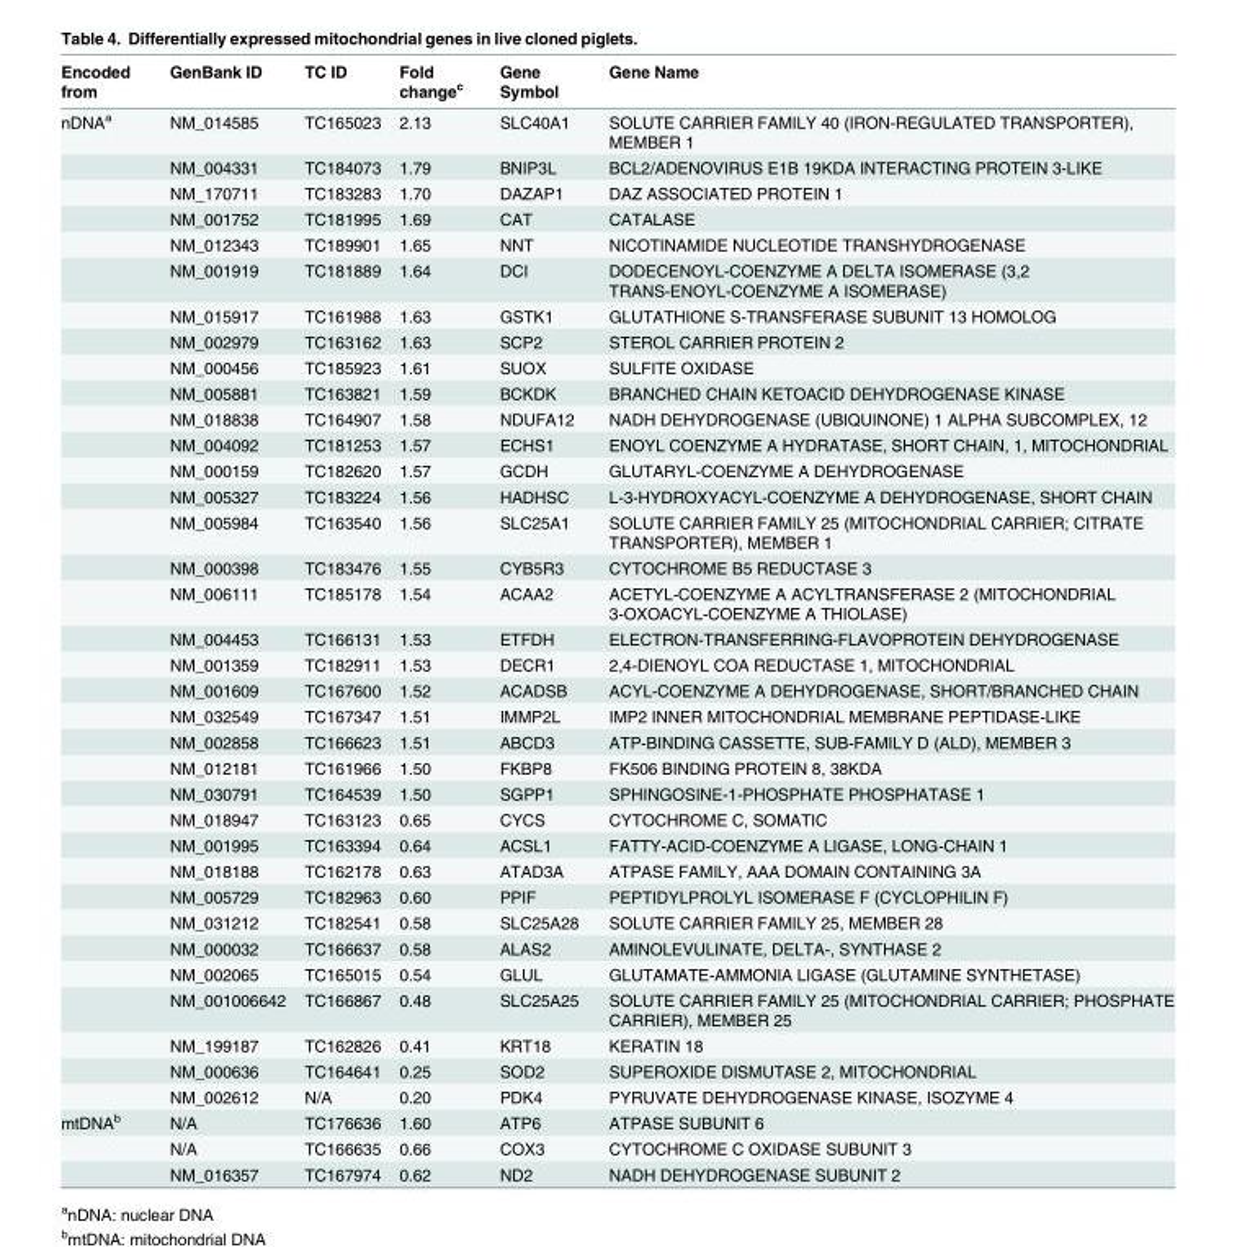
<table><thead><tr><td>Encoded from</td><td>GenBank ID</td><td>TC ID</td><td>Fold change<sup>c</sup></td><td>Gene Symbol</td><td>Gene Name</td></tr></thead><tbody><tr><td rowspan="35">nDNA<sup>a</sup></td><td>NM_014585</td><td>TC165023</td><td>2.13</td><td>SLC40A1</td><td>SOLUTE CARRIER FAMILY 40 (IRON-REGULATED TRANSPORTER), MEMBER 1</td></tr><tr><td>NM_004331</td><td>TC184073</td><td>1.79</td><td>BNIP3L</td><td>BCL2/ADENOVIRUS E1B 19KDA INTERACTING PROTEIN 3-LIKE</td></tr><tr><td>NM_170711</td><td>TC183283</td><td>1.70</td><td>DAZAP1</td><td>DAZ ASSOCIATED PROTEIN 1</td></tr><tr><td>NM_001752</td><td>TC181995</td><td>1.69</td><td>CAT</td><td>CATALASE</td></tr><tr><td>NM_012343</td><td>TC189901</td><td>1.65</td><td>NNT</td><td>NICOTINAMIDE NUCLEOTIDE TRANSHYDROGENASE</td></tr><tr><td>NM_001919</td><td>TC181889</td><td>1.64</td><td>DCI</td><td>DODECENOYL-COENZYME A DELTA ISOMERASE (3,2 TRANS-ENOYL-COENZYME A ISOMERASE)</td></tr><tr><td>NM_015917</td><td>TC161988</td><td>1.63</td><td>GSTK1</td><td>GLUTATHIONE S-TRANSFERASE SUBUNIT 13 HOMOLOG</td></tr><tr><td>NM_002979</td><td>TC163162</td><td>1.63</td><td>SCP2</td><td>STEROL CARRIER PROTEIN 2</td></tr><tr><td>NM_000456</td><td>TC185923</td><td>1.61</td><td>SUOX</td><td>SULFITE OXIDASE</td></tr><tr><td>NM_005881</td><td>TC163821</td><td>1.59</td><td>BCKDK</td><td>BRANCHED CHAIN KETOACID DEHYDROGENASE KINASE</td></tr><tr><td>NM_018838</td><td>TC164907</td><td>1.58</td><td>NDUFA12</td><td>NADH DEHYDROGENASE (UBIQUINONE) 1 ALPHA SUBCOMPLEX, 12</td></tr><tr><td>NM_004092</td><td>TC181253</td><td>1.57</td><td>ECHS1</td><td>ENOYL COENZYME A HYDRATASE, SHORT CHAIN, 1, MITOCHONDRIAL</td></tr><tr><td>NM_000159</td><td>TC182620</td><td>1.57</td><td>GCDH</td><td>GLUTARYL-COENZYME A DEHYDROGENASE</td></tr><tr><td>NM_005327</td><td>TC183224</td><td>1.56</td><td>HADHSC</td><td>L-3-HYDROXYACYL-COENZYME A DEHYDROGENASE, SHORT CHAIN</td></tr><tr><td>NM_005984</td><td>TC163540</td><td>1.56</td><td>SLC25A1</td><td>SOLUTE CARRIER FAMILY 25 (MITOCHONDRIAL CARRIER; CITRATE TRANSPORTER), MEMBER 1</td></tr><tr><td>NM_000398</td><td>TC183476</td><td>1.55</td><td>CYB5R3</td><td>CYTOCHROME B5 REDUCTASE 3</td></tr><tr><td>NM_006111</td><td>TC185178</td><td>1.54</td><td>ACAA2</td><td>ACETYL-COENZYME A ACYLTRANSFERASE 2 (MITOCHONDRIAL 3-OXOACYL-COENZYME A THIOLASE)</td></tr><tr><td>NM_004453</td><td>TC166131</td><td>1.53</td><td>ETFDH</td><td>ELECTRON-TRANSFERRING-FLAVOPROTEIN DEHYDROGENASE</td></tr><tr><td>NM_001359</td><td>TC182911</td><td>1.53</td><td>DECR1</td><td>2,4-DIENOYL COA REDUCTASE 1, MITOCHONDRIAL</td></tr><tr><td>NM_001609</td><td>TC167600</td><td>1.52</td><td>ACADSB</td><td>ACYL-COENZYME A DEHYDROGENASE, SHORT/BRANCHED CHAIN</td></tr><tr><td>NM_032549</td><td>TC167347</td><td>1.51</td><td>IMMP2L</td><td>IMP2 INNER MITOCHONDRIAL MEMBRANE PEPTIDASE-LIKE</td></tr><tr><td>NM_002858</td><td>TC166623</td><td>1.51</td><td>ABCD3</td><td>ATP-BINDING CASSETTE, SUB-FAMILY D (ALD), MEMBER 3</td></tr><tr><td>NM_012181</td><td>TC161966</td><td>1.50</td><td>FKBP8</td><td>FK506 BINDING PROTEIN 8, 38KDA</td></tr><tr><td>NM_030791</td><td>TC164539</td><td>1.50</td><td>SGPP1</td><td>SPHINGOSINE-1-PHOSPHATE PHOSPHATASE 1</td></tr><tr><td>NM_018947</td><td>TC163123</td><td>0.65</td><td>CYCS</td><td>CYTOCHROME C, SOMATIC</td></tr><tr><td>NM_001995</td><td>TC163394</td><td>0.64</td><td>ACSL1</td><td>FATTY-ACID-COENZYME A LIGASE, LONG-CHAIN 1</td></tr><tr><td>NM_018188</td><td>TC162178</td><td>0.63</td><td>ATAD3A</td><td>ATPASE FAMILY, AAA DOMAIN CONTAINING 3A</td></tr><tr><td>NM_005729</td><td>TC182963</td><td>0.60</td><td>PPIF</td><td>PEPTIDYLPROLYL ISOMERASE F (CYCLOPHILIN F)</td></tr><tr><td>NM_031212</td><td>TC182541</td><td>0.58</td><td>SLC25A28</td><td>SOLUTE CARRIER FAMILY 25, MEMBER 28</td></tr><tr><td>NM_000032</td><td>TC166637</td><td>0.58</td><td>ALAS2</td><td>AMINOLEVULINATE, DELTA-, SYNTHASE 2</td></tr><tr><td>NM_002065</td><td>TC165015</td><td>0.54</td><td>GLUL</td><td>GLUTAMATE-AMMONIA LIGASE (GLUTAMINE SYNTHETASE)</td></tr><tr><td>NM_001006642</td><td>TC166867</td><td>0.48</td><td>SLC25A25</td><td>SOLUTE CARRIER FAMILY 25 (MITOCHONDRIAL CARRIER; PHOSPHATE CARRIER), MEMBER 25</td></tr><tr><td>NM_199187</td><td>TC162826</td><td>0.41</td><td>KRT18</td><td>KERATIN 18</td></tr><tr><td>NM_000636</td><td>TC164641</td><td>0.25</td><td>SOD2</td><td>SUPEROXIDE DISMUTASE 2, MITOCHONDRIAL</td></tr><tr><td>NM_002612</td><td>N/A</td><td>0.20</td><td>PDK4</td><td>PYRUVATE DEHYDROGENASE KINASE, ISOZYME 4</td></tr><tr><td rowspan="3">mtDNA<sup>b</sup></td><td>N/A</td><td>TC176636</td><td>1.60</td><td>ATP6</td><td>ATPASE SUBUNIT 6</td></tr><tr><td>N/A</td><td>TC166635</td><td>0.66</td><td>COX3</td><td>CYTOCHROME C OXIDASE SUBUNIT 3</td></tr><tr><td>NM_016357</td><td>TC167974</td><td>0.62</td><td>ND2</td><td>NADH DEHYDROGENASE SUBUNIT 2</td></tr></tbody></table>